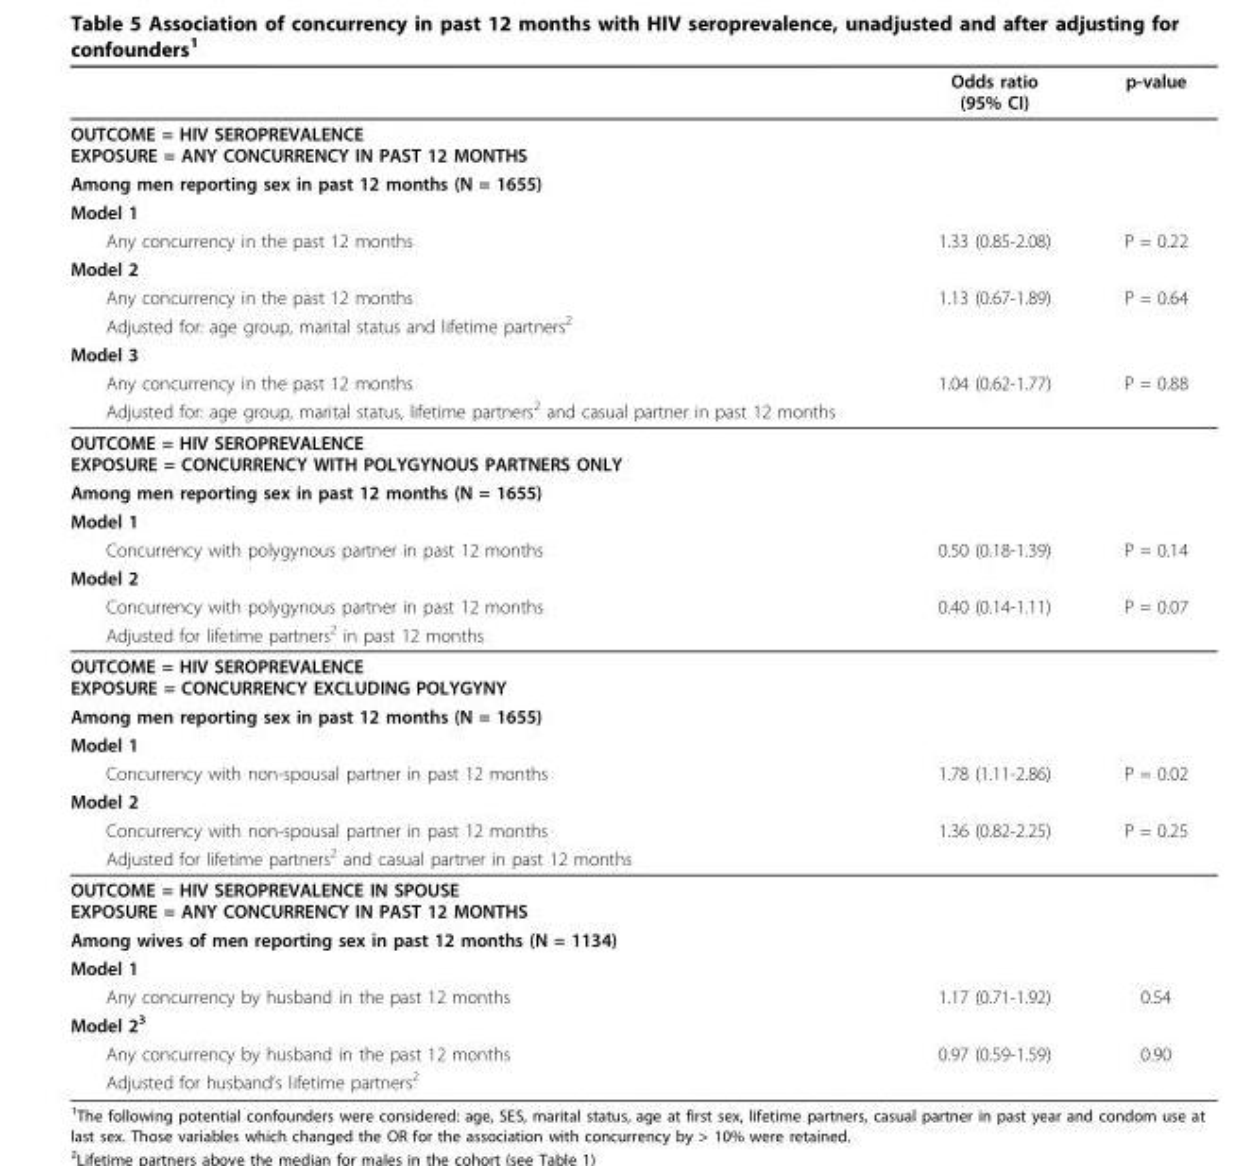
<table><thead><tr><td></td><td>Odds ratio (95% CI)</td><td>p-value</td></tr></thead><tbody><tr><td colspan="3">OUTCOME = HIV SEROPREVALENCE EXPOSURE = ANY CONCURRENCY IN PAST 12 MONTHS</td></tr><tr><td colspan="3">Among men reporting sex in past 12 months (N = 1655)</td></tr><tr><td colspan="3">Model 1</td></tr><tr><td>Any concurrency in the past 12 months</td><td>1.33 (0.85-2.08)</td><td>P = 0.22</td></tr><tr><td colspan="3">Model 2</td></tr><tr><td>Any concurrency in the past 12 months</td><td>1.13 (0.67-1.89)</td><td>P = 0.64</td></tr><tr><td colspan="3">Adjusted for: age group, marital status and lifetime partners<sup>2</sup></td></tr><tr><td colspan="3">Model 3</td></tr><tr><td>Any concurrency in the past 12 months</td><td>1.04 (0.62-1.77)</td><td>P = 0.88</td></tr><tr><td colspan="3">Adjusted for: age group, marital status, lifetime partners<sup>2</sup> and casual partner in past 12 months</td></tr><tr><td colspan="3">OUTCOME = HIV SEROPREVALENCE EXPOSURE = CONCURRENCY WITH POLYGYNOUS PARTNERS ONLY</td></tr><tr><td colspan="3">Among men reporting sex in past 12 months (N = 1655)</td></tr><tr><td colspan="3">Model 1</td></tr><tr><td>Concurrency with polygynous partner in past 12 months</td><td>0.50 (0.18-1.39)</td><td>P = 0.14</td></tr><tr><td colspan="3">Model 2</td></tr><tr><td>Concurrency with polygynous partner in past 12 months</td><td>0.40 (0.14-1.11)</td><td>P = 0.07</td></tr><tr><td colspan="3">Adjusted for lifetime partners<sup>2</sup> in past 12 months</td></tr><tr><td colspan="3">OUTCOME = HIV SEROPREVALENCE EXPOSURE = CONCURRENCY EXCLUDING POLYGYNY</td></tr><tr><td colspan="3">Among men reporting sex in past 12 months (N = 1655)</td></tr><tr><td colspan="3">Model 1</td></tr><tr><td>Concurrency with non-spousal partner in past 12 months</td><td>1.78 (1.11-2.86)</td><td>P = 0.02</td></tr><tr><td colspan="3">Model 2</td></tr><tr><td>Concurrency with non-spousal partner in past 12 months</td><td>1.36 (0.82-2.25)</td><td>P = 0.25</td></tr><tr><td colspan="3">Adjusted for lifetime partners<sup>2</sup> and casual partner in past 12 months</td></tr><tr><td colspan="3">OUTCOME = HIV SEROPREVALENCE IN SPOUSE EXPOSURE = ANY CONCURRENCY IN PAST 12 MONTHS</td></tr><tr><td colspan="3">Among wives of men reporting sex in past 12 months (N = 1134)</td></tr><tr><td colspan="3">Model 1</td></tr><tr><td>Any concurrency by husband in the past 12 months</td><td>1.17 (0.71-1.92)</td><td>0.54</td></tr><tr><td colspan="3">Model 2<sup>3</sup></td></tr><tr><td>Any concurrency by husband in the past 12 months</td><td>0.97 (0.59-1.59)</td><td>0.90</td></tr><tr><td>Adjusted for husband’s lifetime partners<sup>2</sup></td><td></td><td></td></tr></tbody></table>